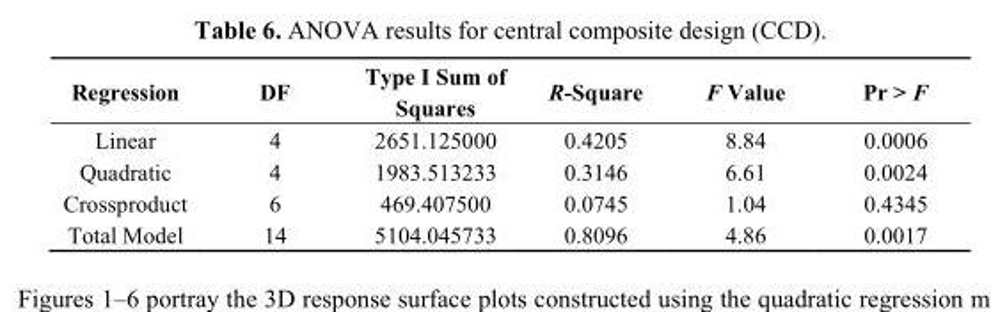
<table><thead><tr><td>Regression</td><td>DF</td><td>Type I Sum of Squares</td><td>R-Square</td><td>F Value</td><td>Pr &gt; F</td></tr></thead><tbody><tr><td>Linear</td><td>4</td><td>2651.125000</td><td>0.4205</td><td>8.84</td><td>0.0006</td></tr><tr><td>Quadratic</td><td>4</td><td>1983.513233</td><td>0.3146</td><td>6.61</td><td>0.0024</td></tr><tr><td>Crossproduct</td><td>6</td><td>469.407500</td><td>0.0745</td><td>1.04</td><td>0.4345</td></tr><tr><td>Total Model</td><td>14</td><td>5104.045733</td><td>0.8096</td><td>4.86</td><td>0.0017</td></tr></tbody></table>